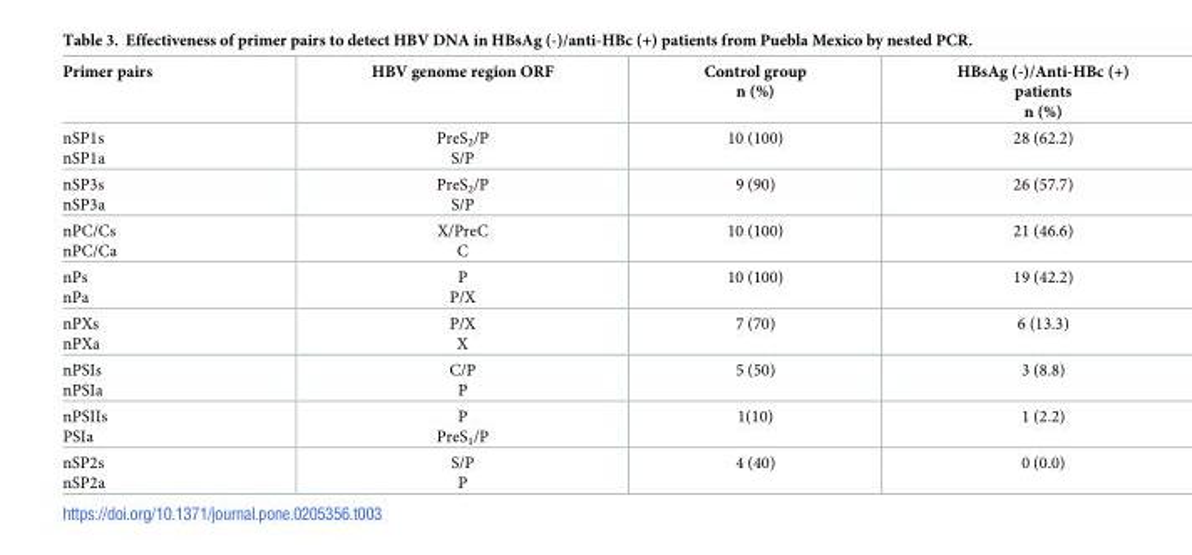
<table><thead><tr><td>Primer pairs</td><td>HBV genome region ORF</td><td>Control group n (%)</td><td>HBsAg (-)/Anti-HBc (+) patients n (%)</td></tr></thead><tbody><tr><td>nSP1s nSP1a</td><td>PreS<sub>2</sub>/P S/P</td><td>10 (100)</td><td>28 (62.2)</td></tr><tr><td>nSP3s nSP3a</td><td>PreS<sub>2</sub>/P S/P</td><td>9 (90)</td><td>26 (57.7)</td></tr><tr><td>nPC/Cs nPC/Ca</td><td>X/PreC C</td><td>10 (100)</td><td>21 (46.6)</td></tr><tr><td>nPs nPa</td><td>P P/X</td><td>10 (100)</td><td>19 (42.2)</td></tr><tr><td>nPXs nPXa</td><td>P/X X</td><td>7 (70)</td><td>6 (13.3)</td></tr><tr><td>nPSIs nPSIa</td><td>C/P P</td><td>5 (50)</td><td>3 (8.8)</td></tr><tr><td>nPSIIs PSIa</td><td>P PreS<sub>1</sub>/P</td><td>1(10)</td><td>1 (2.2)</td></tr><tr><td>nSP2s nSP2a</td><td>S/P P</td><td>4 (40)</td><td>0 (0.0)</td></tr></tbody></table>